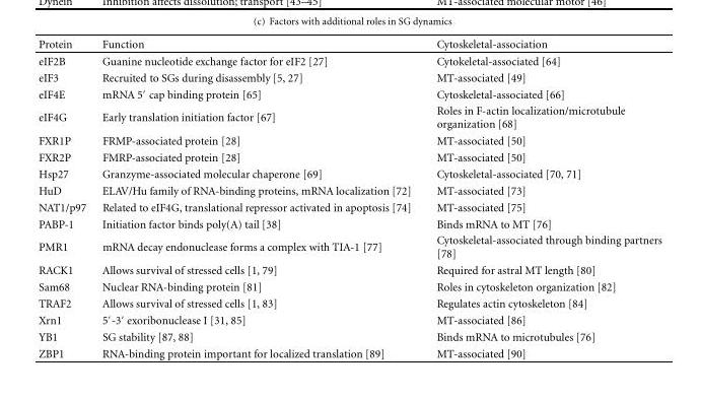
<table><thead><tr><td>Protein</td><td>Function</td><td>Cytoskeletal-association</td></tr></thead><tbody><tr><td>eIF2B</td><td>Guanine nucleotide exchange factor for eIF2 [27]</td><td>Cytokeletal-associated [64]</td></tr><tr><td>eIF3</td><td>Recruited to SGs during disassembly [5, 27]</td><td>MT-associated [49]</td></tr><tr><td>eIF4E</td><td>mRNA 5′ cap binding protein [65]</td><td>Cytoskeletal-associated [66]</td></tr><tr><td>eIF4G</td><td>Early translation initiation factor [67]</td><td>Roles in F-actin localization/microtubule organization [68]</td></tr><tr><td>FXR1P</td><td>FRMP-associated protein [28]</td><td>MT-associated [50]</td></tr><tr><td>FXR2P</td><td>FMRP-associated protein [28]</td><td>MT-associated [50]</td></tr><tr><td>Hsp27</td><td>Granzyme-associated molecular chaperone [69]</td><td>Cytoskeletal-associated [70, 71]</td></tr><tr><td>HuD</td><td>ELAV/Hu family of RNA-binding proteins, mRNA localization [72]</td><td>MT-associated [73]</td></tr><tr><td>NAT1/p97</td><td>Related to eIF4G, translational repressor activated in apoptosis [74]</td><td>MT-associated [75]</td></tr><tr><td>PABP-1</td><td>Initiation factor binds poly(A) tail [38]</td><td>Binds mRNA to MT [76]</td></tr><tr><td>PMR1</td><td>mRNA decay endonuclease forms a complex with TIA-1 [77]</td><td>Cytoskeletal-associated through binding partners [78]</td></tr><tr><td>RACK1</td><td>Allows survival of stressed cells [1, 79]</td><td>Required for astral MT length [80]</td></tr><tr><td>Sam68</td><td>Nuclear RNA-binding protein [81]</td><td>Roles in cytoskeleton organization [82]</td></tr><tr><td>TRAF2</td><td>Allows survival of stressed cells [1, 83]</td><td>Regulates actin cytoskeleton [84]</td></tr><tr><td>Xrn1</td><td>5′-3′ exoribonuclease I [31, 85]</td><td>MT-associated [86]</td></tr><tr><td>YB1</td><td>SG stability [87, 88]</td><td>Binds mRNA to microtubules [76]</td></tr><tr><td>ZBP1</td><td>RNA-binding protein important for localized translation [89]</td><td>MT-associated [90]</td></tr></tbody></table>